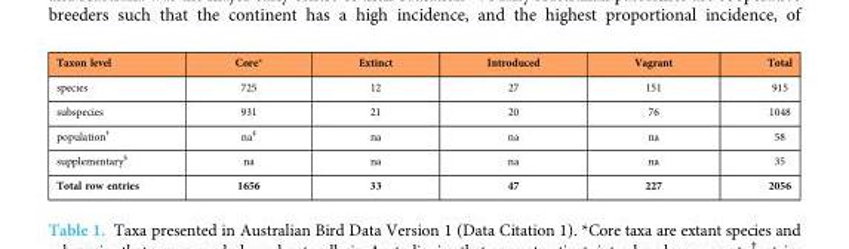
<table><thead><tr><td>Taxon level</td><td>Core*</td><td>Extinct</td><td>Introduced</td><td>Vagrant</td><td>Total</td></tr></thead><tbody><tr><td>species</td><td>725</td><td>12</td><td>27</td><td>151</td><td>915</td></tr><tr><td>subspecies</td><td>931</td><td>21</td><td>20</td><td>76</td><td>1048</td></tr><tr><td>population†</td><td>na‡</td><td>na</td><td>na</td><td>na</td><td>58</td></tr><tr><td>supplementary§</td><td>na</td><td>na</td><td>na</td><td>na</td><td>35</td></tr><tr><td>Total row entries</td><td>1656</td><td>33</td><td>47</td><td>227</td><td>2056</td></tr></tbody></table>